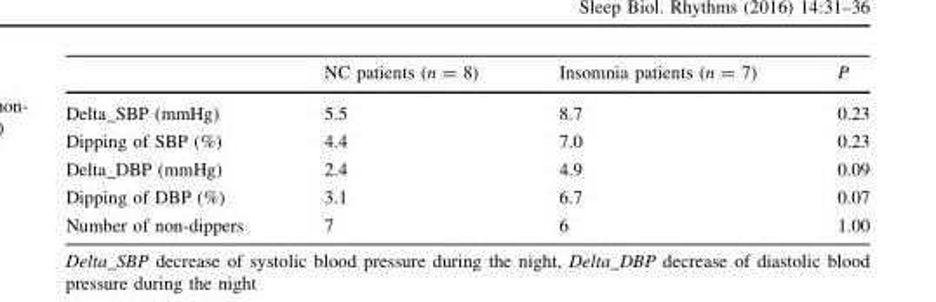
<table><thead><tr><td></td><td>NC patients (n = 8)</td><td>Insomnia patients (n = 7)</td><td>P</td></tr></thead><tbody><tr><td>Delta_SBP (mmHg)</td><td>5.5</td><td>8.7</td><td>0.23</td></tr><tr><td>Dipping of SBP (%)</td><td>4.4</td><td>7.0</td><td>0.23</td></tr><tr><td>Delta_DBP (mmHg)</td><td>2.4</td><td>4.9</td><td>0.09</td></tr><tr><td>Dipping of DBP (%)</td><td>3.1</td><td>6.7</td><td>0.07</td></tr><tr><td>Number of non-dippers</td><td>7</td><td>6</td><td>1.00</td></tr></tbody></table>